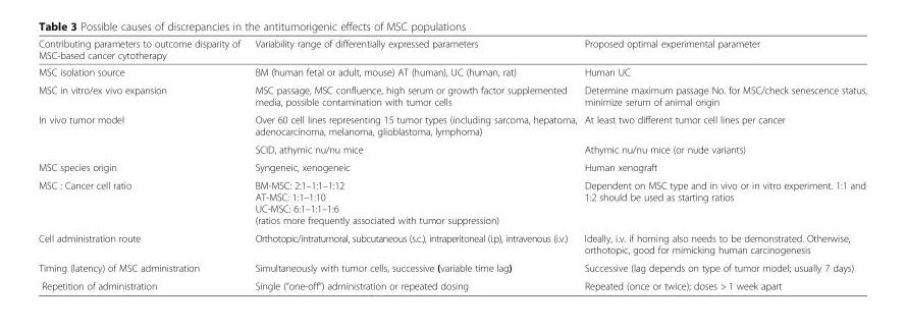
<table><thead><tr><td>Contributing parameters to outcome disparity of MSC-based cancer cytotherapy</td><td>Variability range of differentially expressed parameters</td><td>Proposed optimal experimental parameter</td></tr></thead><tbody><tr><td>MSC isolation source</td><td>BM (human fetal or adult, mouse) AT (human), UC (human, rat)</td><td>Human UC</td></tr><tr><td>MSC in vitro/ex vivo expansion</td><td>MSC passage, MSC confluence, high serum or growth factor supplemented media, possible contamination with tumor cells</td><td>Determine maximum passage No. for MSC/check senescence status, minimize serum of animal origin</td></tr><tr><td rowspan="2">In vivo tumor model</td><td>Over 60 cell lines representing 15 tumor types (including sarcoma, hepatoma, adenocarcinoma, melanoma, glioblastoma, lymphoma)</td><td>At least two different tumor cell lines per cancer</td></tr><tr><td>SCID, athymic nu/nu mice</td><td>Athymic nu/nu mice (or nude variants)</td></tr><tr><td>MSC species origin</td><td>Syngeneic, xenogeneic</td><td>Human xenograft</td></tr><tr><td>MSC : Cancer cell ratio</td><td>BM-MSC: 2:1–1:1–1:12 AT-MSC: 1:1–1:10 UC-MSC: 6:1–1:1–1:6 (ratios more frequently associated with tumor suppression)</td><td>Dependent on MSC type and in vivo or in vitro experiment. 1:1 and 1:2 should be used as starting ratios</td></tr><tr><td>Cell administration route</td><td>Orthotopic/intratumoral, subcutaneous (s.c.), intraperitoneal (i.p), intravenous (i.v.)</td><td>Ideally, i.v. if homing also needs to be demonstrated. Otherwise, orthotopic, good for mimicking human carcinogenesis</td></tr><tr><td>Timing (latency) of MSC administration</td><td>Simultaneously with tumor cells, successive (variable time lag)</td><td>Successive (lag depends on type of tumor model; usually 7 days)</td></tr><tr><td>Repetition of administration</td><td>Single (“one-off”) administration or repeated dosing</td><td>Repeated (once or twice); doses &gt; 1 week apart</td></tr></tbody></table>